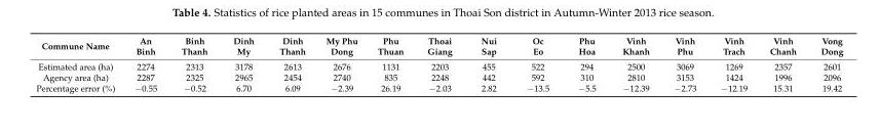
<table><thead><tr><td>Commune Name</td><td>An Binh</td><td>Binh Thanh</td><td>Dinh My</td><td>Dinh Thanh</td><td>My Phu Dong</td><td>Phu Thuan</td><td>Thoai Giang</td><td>Nui Sap</td><td>Oc Eo</td><td>Phu Hoa</td><td>Vinh Khanh</td><td>Vinh Phu</td><td>Vinh Trach</td><td>Vinh Chanh</td><td>Vong Dong</td></tr></thead><tbody><tr><td>Estimated area (ha)</td><td>2274</td><td>2313</td><td>3178</td><td>2613</td><td>2676</td><td>1131</td><td>2203</td><td>455</td><td>522</td><td>294</td><td>2500</td><td>3069</td><td>1269</td><td>2357</td><td>2601</td></tr><tr><td>Agency area (ha)</td><td>2287</td><td>2325</td><td>2965</td><td>2454</td><td>2740</td><td>835</td><td>2248</td><td>442</td><td>592</td><td>310</td><td>2810</td><td>3153</td><td>1424</td><td>1996</td><td>2096</td></tr><tr><td>Percentage error (%)</td><td>−0.55</td><td>−0.52</td><td>6.70</td><td>6.09</td><td>−2.39</td><td>26.19</td><td>−2.03</td><td>2.82</td><td>−13.5</td><td>−5.5</td><td>−12.39</td><td>−2.73</td><td>−12.19</td><td>15.31</td><td>19.42</td></tr></tbody></table>